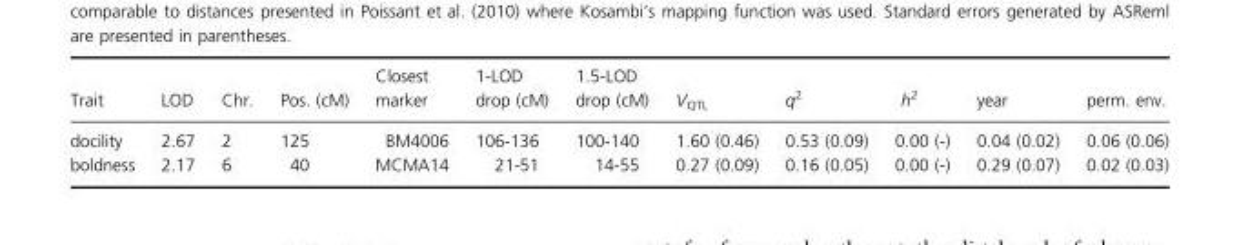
<table><thead><tr><td>Trait</td><td>LOD</td><td>Chr.</td><td>Pos. (cM)</td><td>Closest marker</td><td>1-LOD drop (cM)</td><td>1.5-LOD drop (cM)</td><td>V<sub>QTL</sub></td><td>q<sup>2</sup></td><td>h<sup>2</sup></td><td>year</td><td>perm. env.</td></tr></thead><tbody><tr><td>docility</td><td>2.67</td><td>2</td><td>125</td><td>BM4006</td><td>106-136</td><td>100-140</td><td>1.60 (0.46)</td><td>0.53 (0.09)</td><td>0.00 (-)</td><td>0.04 (0.02)</td><td>0.06 (0.06)</td></tr><tr><td>boldness</td><td>2.17</td><td>6</td><td>40</td><td>MCMA14</td><td>21-51</td><td>14-55</td><td>0.27 (0.09)</td><td>0.16 (0.05)</td><td>0.00 (-)</td><td>0.29 (0.07)</td><td>0.02 (0.03)</td></tr></tbody></table>